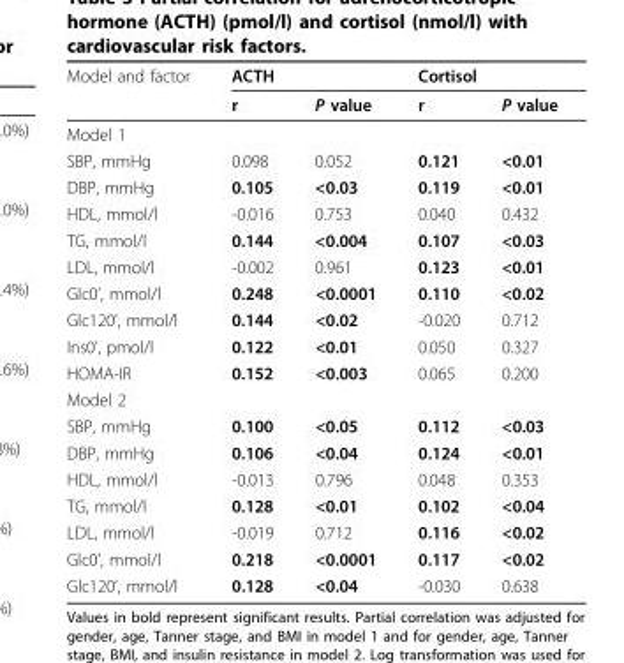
<table><thead><tr><td rowspan="2">Model and factor</td><td colspan="2">ACTH</td><td colspan="2">Cortisol</td></tr><tr><td>r</td><td>P value</td><td>r</td><td>P value</td></tr></thead><tbody><tr><td colspan="5">Model 1</td></tr><tr><td>SBP, mmHg</td><td>0.098</td><td>0.052</td><td>0.121</td><td>&lt;0.01</td></tr><tr><td>DBP, mmHg</td><td>0.105</td><td>&lt;0.03</td><td>0.119</td><td>&lt;0.01</td></tr><tr><td>HDL, mmol/l</td><td>-0.016</td><td>0.753</td><td>0.040</td><td>0.432</td></tr><tr><td>TG, mmol/l</td><td>0.144</td><td>&lt;0.004</td><td>0.107</td><td>&lt;0.03</td></tr><tr><td>LDL, mmol/l</td><td>-0.002</td><td>0.961</td><td>0.123</td><td>&lt;0.01</td></tr><tr><td>Glc0’, mmol/l</td><td>0.248</td><td>&lt;0.0001</td><td>0.110</td><td>&lt;0.02</td></tr><tr><td>Glc120’, mmol/l</td><td>0.144</td><td>&lt;0.02</td><td>-0.020</td><td>0.712</td></tr><tr><td>Ins0’, pmol/l</td><td>0.122</td><td>&lt;0.01</td><td>0.050</td><td>0.327</td></tr><tr><td>HOMA-IR</td><td>0.152</td><td>&lt;0.003</td><td>0.065</td><td>0.200</td></tr><tr><td colspan="5">Model 2</td></tr><tr><td>SBP, mmHg</td><td>0.100</td><td>&lt;0.05</td><td>0.112</td><td>&lt;0.03</td></tr><tr><td>DBP, mmHg</td><td>0.106</td><td>&lt;0.04</td><td>0.124</td><td>&lt;0.01</td></tr><tr><td>HDL, mmol/l</td><td>-0.013</td><td>0.796</td><td>0.048</td><td>0.353</td></tr><tr><td>TG, mmol/l</td><td>0.128</td><td>&lt;0.01</td><td>0.102</td><td>&lt;0.04</td></tr><tr><td>LDL, mmol/l</td><td>-0.019</td><td>0.712</td><td>0.116</td><td>&lt;0.02</td></tr><tr><td>Glc0’, mmol/l</td><td>0.218</td><td>&lt;0.0001</td><td>0.117</td><td>&lt;0.02</td></tr><tr><td>Glc120’, mmol/l</td><td>0.128</td><td>&lt;0.04</td><td>-0.030</td><td>0.638</td></tr></tbody></table>